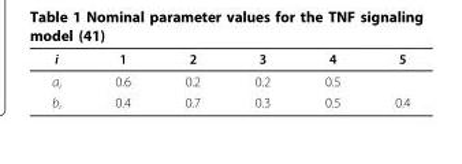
<table><thead><tr><td>i</td><td>1</td><td>2</td><td>3</td><td>4</td><td>5</td></tr></thead><tbody><tr><td>a<sub>i</sub></td><td>0.6</td><td>0.2</td><td>0.2</td><td>0.5</td><td></td></tr><tr><td>b<sub>i</sub></td><td>0.4</td><td>0.7</td><td>0.3</td><td>0.5</td><td>0.4</td></tr></tbody></table>